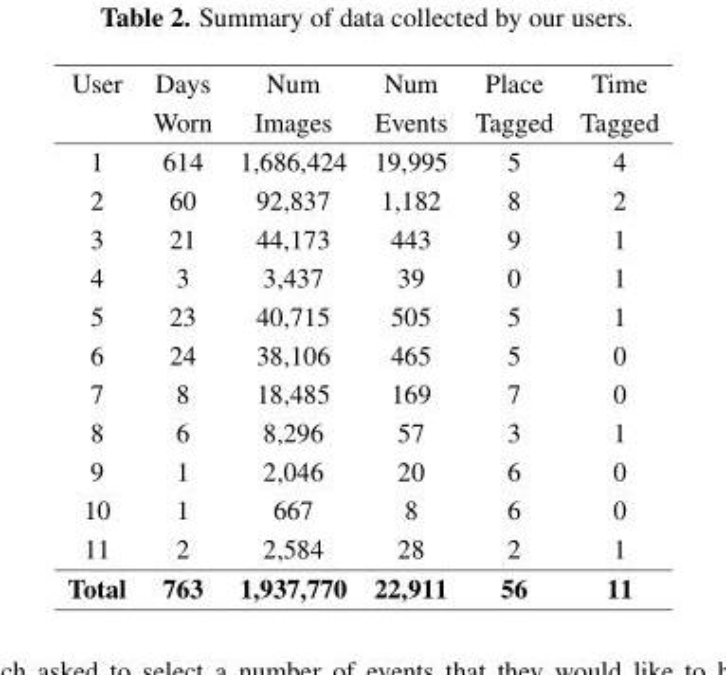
<table><thead><tr><td>User</td><td>Days Worn</td><td>Num Images</td><td>Num Events</td><td>Place Tagged</td><td>Time Tagged</td></tr></thead><tbody><tr><td>1</td><td>614</td><td>1,686,424</td><td>19,995</td><td>5</td><td>4</td></tr><tr><td>2</td><td>60</td><td>92,837</td><td>1,182</td><td>8</td><td>2</td></tr><tr><td>3</td><td>21</td><td>44,173</td><td>443</td><td>9</td><td>1</td></tr><tr><td>4</td><td>3</td><td>3,437</td><td>39</td><td>0</td><td>1</td></tr><tr><td>5</td><td>23</td><td>40,715</td><td>505</td><td>5</td><td>1</td></tr><tr><td>6</td><td>24</td><td>38,106</td><td>465</td><td>5</td><td>0</td></tr><tr><td>7</td><td>8</td><td>18,485</td><td>169</td><td>7</td><td>0</td></tr><tr><td>8</td><td>6</td><td>8,296</td><td>57</td><td>3</td><td>1</td></tr><tr><td>9</td><td>1</td><td>2,046</td><td>20</td><td>6</td><td>0</td></tr><tr><td>10</td><td>1</td><td>667</td><td>8</td><td>6</td><td>0</td></tr><tr><td>11</td><td>2</td><td>2,584</td><td>28</td><td>2</td><td>1</td></tr><tr><td>Total</td><td>763</td><td>1,937,770</td><td>22,911</td><td>56</td><td>11</td></tr></tbody></table>